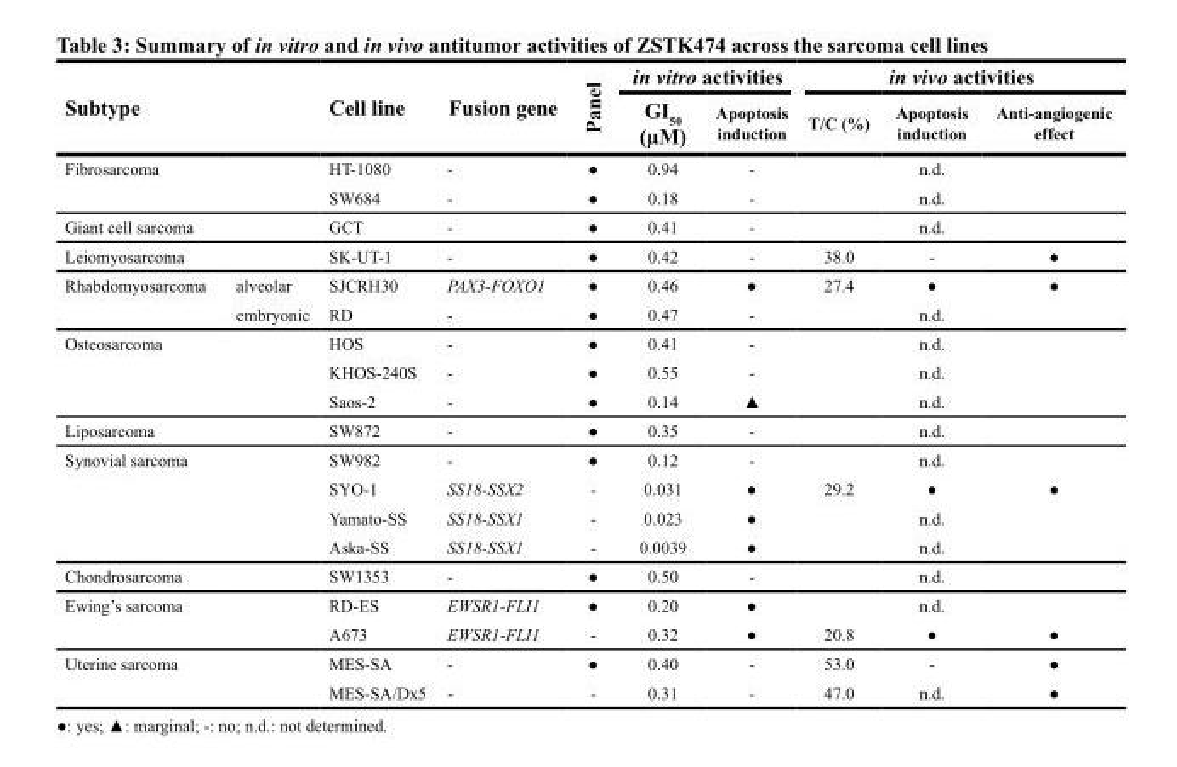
<table><thead><tr><td rowspan="2" colspan="2">Subtype</td><td rowspan="2">Cell line</td><td rowspan="2">Fusion gene</td><td rowspan="2">Panel</td><td colspan="2">in vitro activities</td><td colspan="3">in vivo activities</td></tr><tr><td>GI<sub>50</sub> (µM)</td><td>Apoptosis induction</td><td>T/C (%)</td><td>Apoptosis induction</td><td>Anti-angiogenic effect</td></tr></thead><tbody><tr><td rowspan="2" colspan="2">Fibrosarcoma</td><td>HT-1080</td><td>-</td><td>●</td><td>0.94</td><td>-</td><td></td><td>n.d.</td><td></td></tr><tr><td>SW684</td><td>-</td><td>●</td><td>0.18</td><td>-</td><td></td><td>n.d.</td><td></td></tr><tr><td colspan="2">Giant cell sarcoma</td><td>GCT</td><td>-</td><td>●</td><td>0.41</td><td>-</td><td></td><td>n.d.</td><td></td></tr><tr><td colspan="2">Leiomyosarcoma</td><td>SK-UT-1</td><td>-</td><td>●</td><td>0.42</td><td>-</td><td>38.0</td><td>-</td><td>●</td></tr><tr><td rowspan="2">Rhabdomyosarcoma</td><td>alveolar</td><td>SJCRH30</td><td>PAX3-FOXO1</td><td>●</td><td>0.46</td><td>●</td><td>27.4</td><td>●</td><td>●</td></tr><tr><td>embryonic</td><td>RD</td><td>-</td><td>●</td><td>0.47</td><td>-</td><td></td><td>n.d.</td><td></td></tr><tr><td rowspan="3" colspan="2">Osteosarcoma</td><td>HOS</td><td>-</td><td>●</td><td>0.41</td><td>-</td><td></td><td>n.d.</td><td></td></tr><tr><td>KHOS-240S</td><td>-</td><td>●</td><td>0.55</td><td>-</td><td></td><td>n.d.</td><td></td></tr><tr><td>Saos-2</td><td>-</td><td>●</td><td>0.14</td><td>▲</td><td></td><td>n.d.</td><td></td></tr><tr><td colspan="2">Liposarcoma</td><td>SW872</td><td>-</td><td>●</td><td>0.35</td><td>-</td><td></td><td>n.d.</td><td></td></tr><tr><td rowspan="4" colspan="2">Synovial sarcoma</td><td>SW982</td><td>-</td><td>●</td><td>0.12</td><td>-</td><td></td><td>n.d.</td><td></td></tr><tr><td>SYO-1</td><td>SS18-SSX2</td><td>-</td><td>0.031</td><td>●</td><td>29.2</td><td>●</td><td>●</td></tr><tr><td>Yamato-SS</td><td>SS18-SSX1</td><td>-</td><td>0.023</td><td>●</td><td></td><td>n.d.</td><td></td></tr><tr><td>Aska-SS</td><td>SS18-SSX1</td><td>-</td><td>0.0039</td><td>●</td><td></td><td>n.d.</td><td></td></tr><tr><td colspan="2">Chondrosarcoma</td><td>SW1353</td><td>-</td><td>●</td><td>0.50</td><td>-</td><td></td><td>n.d.</td><td></td></tr><tr><td rowspan="2" colspan="2">Ewing’s sarcoma</td><td>RD-ES</td><td>EWSR1-FLI1</td><td>●</td><td>0.20</td><td>●</td><td></td><td>n.d.</td><td></td></tr><tr><td>A673</td><td>EWSR1-FLI1</td><td>-</td><td>0.32</td><td>●</td><td>20.8</td><td>●</td><td>●</td></tr><tr><td rowspan="2" colspan="2">Uterine sarcoma</td><td>MES-SA</td><td>-</td><td>●</td><td>0.40</td><td>-</td><td>53.0</td><td>-</td><td>●</td></tr><tr><td>MES-SA/Dx5</td><td>-</td><td>-</td><td>0.31</td><td>-</td><td>47.0</td><td>n.d.</td><td>●</td></tr></tbody></table>